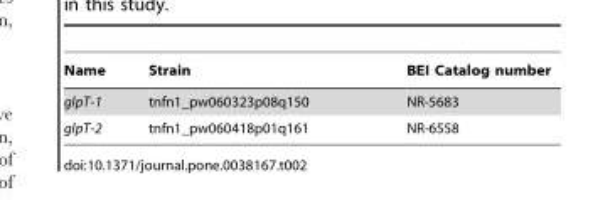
<table><thead><tr><td>Name</td><td>Strain</td><td>BEI Catalog number</td></tr></thead><tbody><tr><td>glpT-1</td><td>tnfn1_pw060323p08q150</td><td>NR-5683</td></tr><tr><td>glpT-2</td><td>tnfn1_pw060418p01q161</td><td>NR-6558</td></tr></tbody></table>